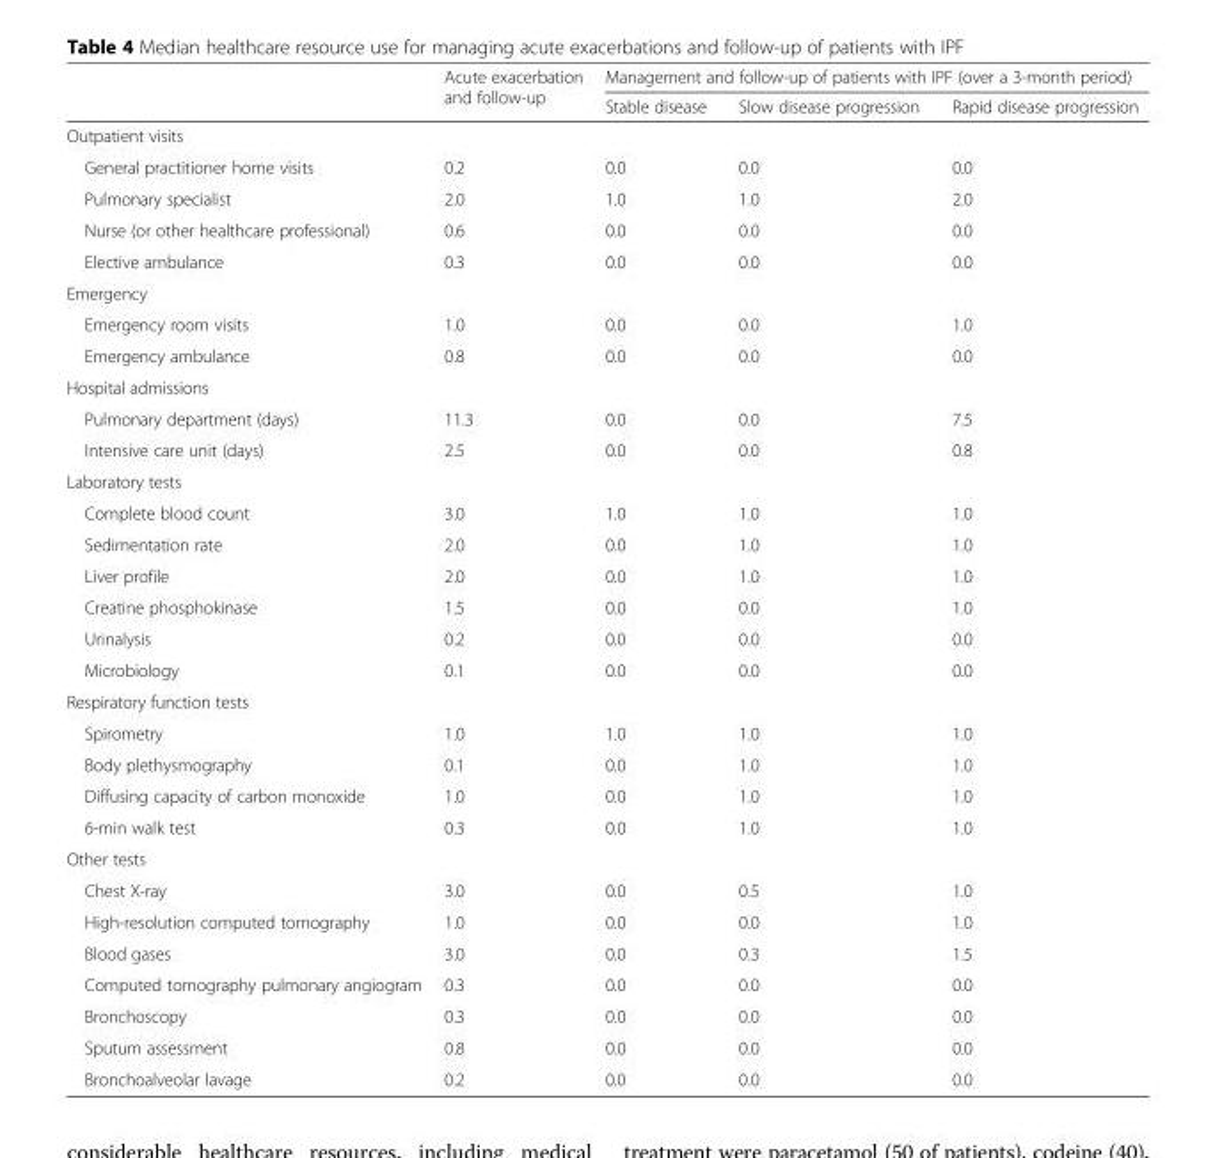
<table><thead><tr><td rowspan="2"></td><td rowspan="2">Acute exacerbation and follow-up</td><td colspan="3">Management and follow-up of patients with IPF (over a 3-month period)</td></tr><tr><td>Stable disease</td><td>Slow disease progression</td><td>Rapid disease progression</td></tr></thead><tbody><tr><td colspan="5">Outpatient visits</td></tr><tr><td>General practitioner home visits</td><td>0.2</td><td>0.0</td><td>0.0</td><td>0.0</td></tr><tr><td>Pulmonary specialist</td><td>2.0</td><td>1.0</td><td>1.0</td><td>2.0</td></tr><tr><td>Nurse (or other healthcare professional)</td><td>0.6</td><td>0.0</td><td>0.0</td><td>0.0</td></tr><tr><td>Elective ambulance</td><td>0.3</td><td>0.0</td><td>0.0</td><td>0.0</td></tr><tr><td colspan="5">Emergency</td></tr><tr><td>Emergency room visits</td><td>1.0</td><td>0.0</td><td>0.0</td><td>1.0</td></tr><tr><td>Emergency ambulance</td><td>0.8</td><td>0.0</td><td>0.0</td><td>0.0</td></tr><tr><td colspan="5">Hospital admissions</td></tr><tr><td>Pulmonary department (days)</td><td>11.3</td><td>0.0</td><td>0.0</td><td>7.5</td></tr><tr><td>Intensive care unit (days)</td><td>2.5</td><td>0.0</td><td>0.0</td><td>0.8</td></tr><tr><td colspan="5">Laboratory tests</td></tr><tr><td>Complete blood count</td><td>3.0</td><td>1.0</td><td>1.0</td><td>1.0</td></tr><tr><td>Sedimentation rate</td><td>2.0</td><td>0.0</td><td>1.0</td><td>1.0</td></tr><tr><td>Liver profile</td><td>2.0</td><td>0.0</td><td>1.0</td><td>1.0</td></tr><tr><td>Creatine phosphokinase</td><td>1.5</td><td>0.0</td><td>0.0</td><td>1.0</td></tr><tr><td>Urinalysis</td><td>0.2</td><td>0.0</td><td>0.0</td><td>0.0</td></tr><tr><td>Microbiology</td><td>0.1</td><td>0.0</td><td>0.0</td><td>0.0</td></tr><tr><td colspan="5">Respiratory function tests</td></tr><tr><td>Spirometry</td><td>1.0</td><td>1.0</td><td>1.0</td><td>1.0</td></tr><tr><td>Body plethysmography</td><td>0.1</td><td>0.0</td><td>1.0</td><td>1.0</td></tr><tr><td>Diffusing capacity of carbon monoxide</td><td>1.0</td><td>0.0</td><td>1.0</td><td>1.0</td></tr><tr><td>6-min walk test</td><td>0.3</td><td>0.0</td><td>1.0</td><td>1.0</td></tr><tr><td colspan="5">Other tests</td></tr><tr><td>Chest X-ray</td><td>3.0</td><td>0.0</td><td>0.5</td><td>1.0</td></tr><tr><td>High-resolution computed tomography</td><td>1.0</td><td>0.0</td><td>0.0</td><td>1.0</td></tr><tr><td>Blood gases</td><td>3.0</td><td>0.0</td><td>0.3</td><td>1.5</td></tr><tr><td>Computed tomography pulmonary angiogram</td><td>0.3</td><td>0.0</td><td>0.0</td><td>0.0</td></tr><tr><td>Bronchoscopy</td><td>0.3</td><td>0.0</td><td>0.0</td><td>0.0</td></tr><tr><td>Sputum assessment</td><td>0.8</td><td>0.0</td><td>0.0</td><td>0.0</td></tr><tr><td>Bronchoalveolar lavage</td><td>0.2</td><td>0.0</td><td>0.0</td><td>0.0</td></tr></tbody></table>